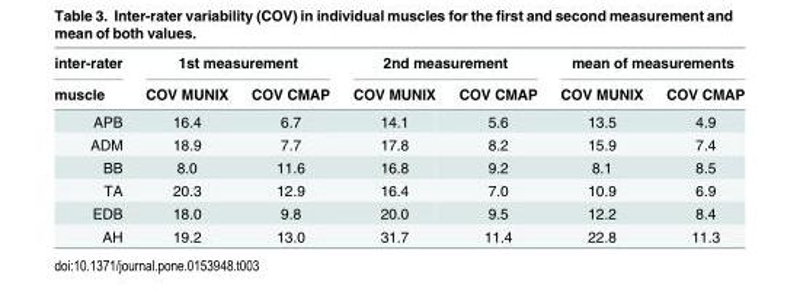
<table><thead><tr><td rowspan="2">inter-rater muscle</td><td colspan="2">1st measurement</td><td colspan="2">2nd measurement</td><td colspan="2">mean of measurements</td></tr><tr><td>COV MUNIX</td><td>COV CMAP</td><td>COV MUNIX</td><td>COV CMAP</td><td>COV MUNIX</td><td>COV CMAP</td></tr></thead><tbody><tr><td>APB</td><td>16.4</td><td>6.7</td><td>14.1</td><td>5.6</td><td>13.5</td><td>4.9</td></tr><tr><td>ADM</td><td>18.9</td><td>7.7</td><td>17.8</td><td>8.2</td><td>15.9</td><td>7.4</td></tr><tr><td>BB</td><td>8.0</td><td>11.6</td><td>16.8</td><td>9.2</td><td>8.1</td><td>8.5</td></tr><tr><td>TA</td><td>20.3</td><td>12.9</td><td>16.4</td><td>7.0</td><td>10.9</td><td>6.9</td></tr><tr><td>EDB</td><td>18.0</td><td>9.8</td><td>20.0</td><td>9.5</td><td>12.2</td><td>8.4</td></tr><tr><td>AH</td><td>19.2</td><td>13.0</td><td>31.7</td><td>11.4</td><td>22.8</td><td>11.3</td></tr></tbody></table>